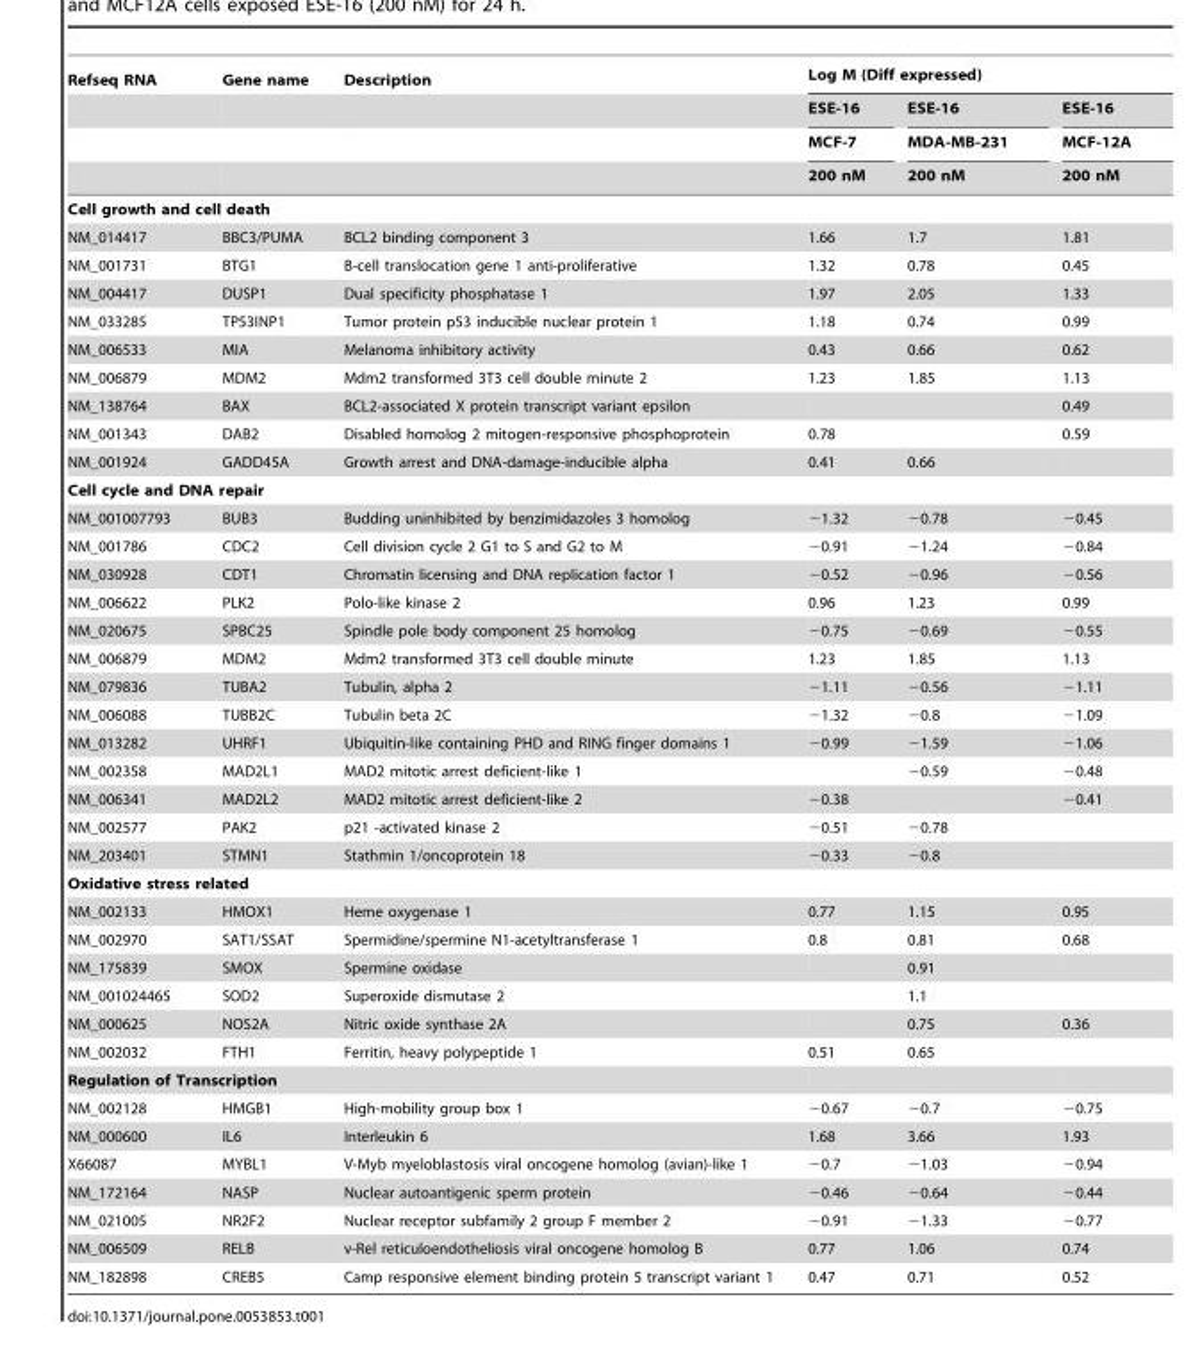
<table><thead><tr><td rowspan="4">Refseq RNA</td><td rowspan="4">Gene name</td><td rowspan="4">Description</td><td colspan="3">Log M (Diff expressed)</td></tr><tr><td rowspan="3">ESE-16 MCF-7 200 nM</td><td rowspan="3">ESE-16 MDA-MB-231 200 nM</td><td rowspan="3">ESE-16 MCF-12A 200 nM</td></tr><tr></tr><tr></tr></thead><tbody><tr><td colspan="6">Cell growth and cell death</td></tr><tr><td>NM_014417</td><td>BBC3/PUMA</td><td>BCL2 binding component 3</td><td>1.66</td><td>1.7</td><td>1.81</td></tr><tr><td>NM_001731</td><td>BTG1</td><td>B-cell translocation gene 1 anti-proliferative</td><td>1.32</td><td>0.78</td><td>0.45</td></tr><tr><td>NM_004417</td><td>DUSP1</td><td>Dual specificity phosphatase 1</td><td>1.97</td><td>2.05</td><td>1.33</td></tr><tr><td>NM_033285</td><td>TP53INP1</td><td>Tumor protein p53 inducible nuclear protein 1</td><td>1.18</td><td>0.74</td><td>0.99</td></tr><tr><td>NM_006533</td><td>MIA</td><td>Melanoma inhibitory activity</td><td>0.43</td><td>0.66</td><td>0.62</td></tr><tr><td>NM_006879</td><td>MDM2</td><td>Mdm2 transformed 3T3 cell double minute 2</td><td>1.23</td><td>1.85</td><td>1.13</td></tr><tr><td>NM_138764</td><td>BAX</td><td>BCL2-associated X protein transcript variant epsilon</td><td></td><td></td><td>0.49</td></tr><tr><td>NM_001343</td><td>DAB2</td><td>Disabled homolog 2 mitogen-responsive phosphoprotein</td><td>0.78</td><td></td><td>0.59</td></tr><tr><td>NM_001924</td><td>GADD45A</td><td>Growth arrest and DNA-damage-inducible alpha</td><td>0.41</td><td>0.66</td><td></td></tr><tr><td colspan="6">Cell cycle and DNA repair</td></tr><tr><td>NM_001007793</td><td>BUB3</td><td>Budding uninhibited by benzimidazoles 3 homolog</td><td>−1.32</td><td>−0.78</td><td>−0.45</td></tr><tr><td>NM_001786</td><td>CDC2</td><td>Cell division cycle 2 G1 to S and G2 to M</td><td>−0.91</td><td>−1.24</td><td>−0.84</td></tr><tr><td>NM_030928</td><td>CDT1</td><td>Chromatin licensing and DNA replication factor 1</td><td>−0.52</td><td>−0.96</td><td>−0.56</td></tr><tr><td>NM_006622</td><td>PLK2</td><td>Polo-like kinase 2</td><td>0.96</td><td>1.23</td><td>0.99</td></tr><tr><td>NM_020675</td><td>SPBC25</td><td>Spindle pole body component 25 homolog</td><td>−0.75</td><td>−0.69</td><td>−0.55</td></tr><tr><td>NM_006879</td><td>MDM2</td><td>Mdm2 transformed 3T3 cell double minute</td><td>1.23</td><td>1.85</td><td>1.13</td></tr><tr><td>NM_079836</td><td>TUBA2</td><td>Tubulin, alpha 2</td><td>−1.11</td><td>−0.56</td><td>−1.11</td></tr><tr><td>NM_006088</td><td>TUBB2C</td><td>Tubulin beta 2C</td><td>−1.32</td><td>−0.8</td><td>−1.09</td></tr><tr><td>NM_013282</td><td>UHRF1</td><td>Ubiquitin-like containing PHD and RING finger domains 1</td><td>−0.99</td><td>−1.59</td><td>−1.06</td></tr><tr><td>NM_002358</td><td>MAD2L1</td><td>MAD2 mitotic arrest deficient-like 1</td><td></td><td>−0.59</td><td>−0.48</td></tr><tr><td>NM_006341</td><td>MAD2L2</td><td>MAD2 mitotic arrest deficient-like 2</td><td>−0.38</td><td></td><td>−0.41</td></tr><tr><td>NM_002577</td><td>PAK2</td><td>p21 -activated kinase 2</td><td>−0.51</td><td>−0.78</td><td></td></tr><tr><td>NM_203401</td><td>STMN1</td><td>Stathmin 1/oncoprotein 18</td><td>−0.33</td><td>−0.8</td><td></td></tr><tr><td colspan="6">Oxidative stress related</td></tr><tr><td>NM_002133</td><td>HMOX1</td><td>Heme oxygenase 1</td><td>0.77</td><td>1.15</td><td>0.95</td></tr><tr><td>NM_002970</td><td>SAT1/SSAT</td><td>Spermidine/spermine N1-acetyltransferase 1</td><td>0.8</td><td>0.81</td><td>0.68</td></tr><tr><td>NM_175839</td><td>SMOX</td><td>Spermine oxidase</td><td></td><td>0.91</td><td></td></tr><tr><td>NM_001024465</td><td>SOD2</td><td>Superoxide dismutase 2</td><td></td><td>1.1</td><td></td></tr><tr><td>NM_000625</td><td>NOS2A</td><td>Nitric oxide synthase 2A</td><td></td><td>0.75</td><td>0.36</td></tr><tr><td>NM_002032</td><td>FTH1</td><td>Ferritin, heavy polypeptide 1</td><td>0.51</td><td>0.65</td><td></td></tr><tr><td colspan="6">Regulation of Transcription</td></tr><tr><td>NM_002128</td><td>HMGB1</td><td>High-mobility group box 1</td><td>−0.67</td><td>−0.7</td><td>−0.75</td></tr><tr><td>NM_000600</td><td>IL6</td><td>Interleukin 6</td><td>1.68</td><td>3.66</td><td>1.93</td></tr><tr><td>X66087</td><td>MYBL1</td><td>V-Myb myeloblastosis viral oncogene homolog (avian)-like 1</td><td>−0.7</td><td>−1.03</td><td>−0.94</td></tr><tr><td>NM_172164</td><td>NASP</td><td>Nuclear autoantigenic sperm protein</td><td>−0.46</td><td>−0.64</td><td>−0.44</td></tr><tr><td>NM_021005</td><td>NR2F2</td><td>Nuclear receptor subfamily 2 group F member 2</td><td>−0.91</td><td>−1.33</td><td>−0.77</td></tr><tr><td>NM_006509</td><td>RELB</td><td>v-Rel reticuloendotheliosis viral oncogene homolog B</td><td>0.77</td><td>1.06</td><td>0.74</td></tr><tr><td>NM_182898</td><td>CREB5</td><td>Camp responsive element binding protein 5 transcript variant 1</td><td>0.47</td><td>0.71</td><td>0.52</td></tr></tbody></table>